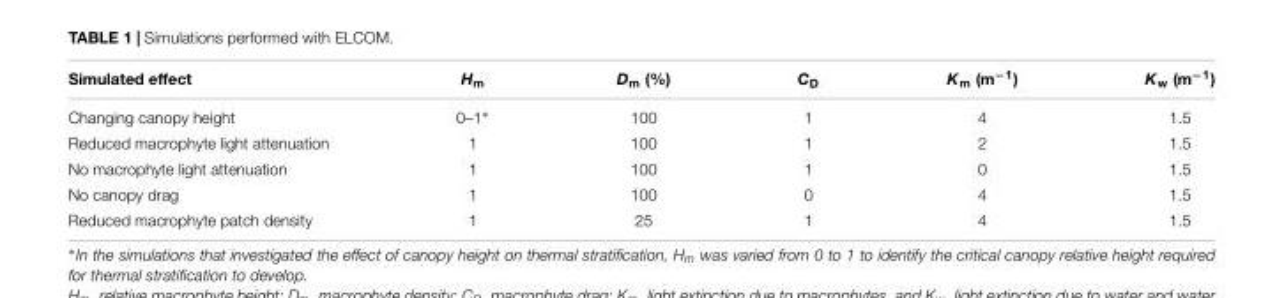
<table><thead><tr><td>Simulated effect</td><td>H<sub>m</sub></td><td>D<sub>m</sub> (%)</td><td>C<sub>D</sub></td><td>K<sub>m</sub> (m<sup>−1</sup>)</td><td>K<sub>w</sub> (m<sup>−1</sup>)</td></tr></thead><tbody><tr><td>Changing canopy height</td><td>0–1∗</td><td>100</td><td>1</td><td>4</td><td>1.5</td></tr><tr><td>Reduced macrophyte light attenuation</td><td>1</td><td>100</td><td>1</td><td>2</td><td>1.5</td></tr><tr><td>No macrophyte light attenuation</td><td>1</td><td>100</td><td>1</td><td>0</td><td>1.5</td></tr><tr><td>No canopy drag</td><td>1</td><td>100</td><td>0</td><td>4</td><td>1.5</td></tr><tr><td>Reduced macrophyte patch density</td><td>1</td><td>25</td><td>1</td><td>4</td><td>1.5</td></tr></tbody></table>